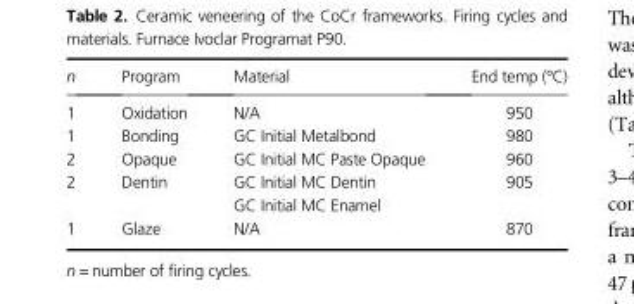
<table><thead><tr><td>n</td><td>Program</td><td>Material</td><td>End temp (°C)</td></tr></thead><tbody><tr><td>1</td><td>Oxidation</td><td>N/A</td><td>950</td></tr><tr><td>1</td><td>Bonding</td><td>GC Initial Metalbond</td><td>980</td></tr><tr><td>2</td><td>Opaque</td><td>GC Initial MC Paste Opaque</td><td>960</td></tr><tr><td>2</td><td>Dentin</td><td>GC Initial MC Dentin GC Initial MC Enamel</td><td>905</td></tr><tr><td>1</td><td>Glaze</td><td>N/A</td><td>870</td></tr></tbody></table>